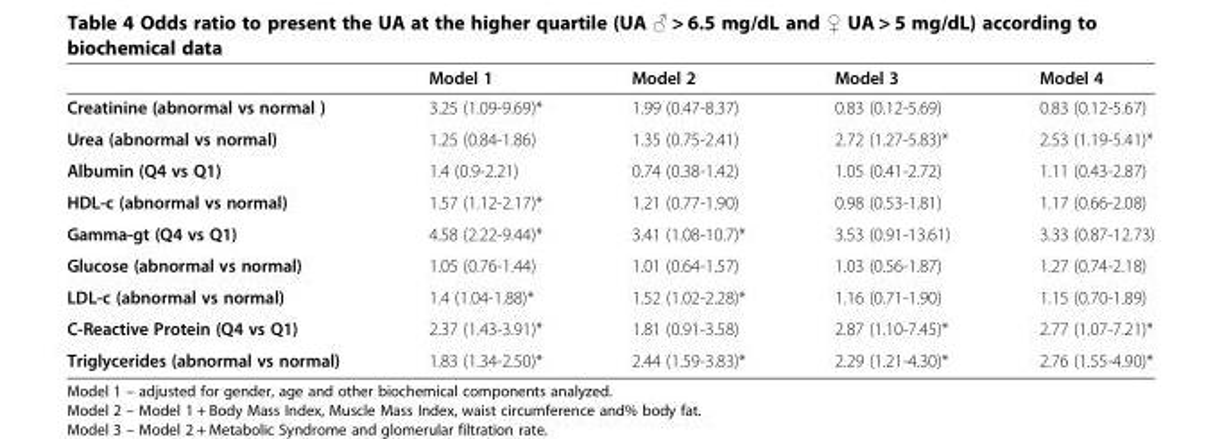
<table><thead><tr><td></td><td>Model 1</td><td>Model 2</td><td>Model 3</td><td>Model 4</td></tr></thead><tbody><tr><td>Creatinine (abnormal vs normal )</td><td>3.25 (1.09-9.69)*</td><td>1.99 (0.47-8.37)</td><td>0.83 (0.12-5.69)</td><td>0.83 (0.12-5.67)</td></tr><tr><td>Urea (abnormal vs normal)</td><td>1.25 (0.84-1.86)</td><td>1.35 (0.75-2.41)</td><td>2.72 (1.27-5.83)*</td><td>2.53 (1.19-5.41)*</td></tr><tr><td>Albumin (Q4 vs Q1)</td><td>1.4 (0.9-2.21)</td><td>0.74 (0.38-1.42)</td><td>1.05 (0.41-2.72)</td><td>1.11 (0.43-2.87)</td></tr><tr><td>HDL-c (abnormal vs normal)</td><td>1.57 (1.12-2.17)*</td><td>1.21 (0.77-1.90)</td><td>0.98 (0.53-1.81)</td><td>1.17 (0.66-2.08)</td></tr><tr><td>Gamma-gt (Q4 vs Q1)</td><td>4.58 (2.22-9.44)*</td><td>3.41 (1.08-10.7)*</td><td>3.53 (0.91-13.61)</td><td>3.33 (0.87-12.73)</td></tr><tr><td>Glucose (abnormal vs normal)</td><td>1.05 (0.76-1.44)</td><td>1.01 (0.64-1.57)</td><td>1.03 (0.56-1.87)</td><td>1.27 (0.74-2.18)</td></tr><tr><td>LDL-c (abnormal vs normal)</td><td>1.4 (1.04-1.88)*</td><td>1.52 (1.02-2.28)*</td><td>1.16 (0.71-1.90)</td><td>1.15 (0.70-1.89)</td></tr><tr><td>C-Reactive Protein (Q4 vs Q1)</td><td>2.37 (1.43-3.91)*</td><td>1.81 (0.91-3.58)</td><td>2.87 (1.10-7.45)*</td><td>2.77 (1.07-7.21)*</td></tr><tr><td>Triglycerides (abnormal vs normal)</td><td>1.83 (1.34-2.50)*</td><td>2.44 (1.59-3.83)*</td><td>2.29 (1.21-4.30)*</td><td>2.76 (1.55-4.90)*</td></tr></tbody></table>